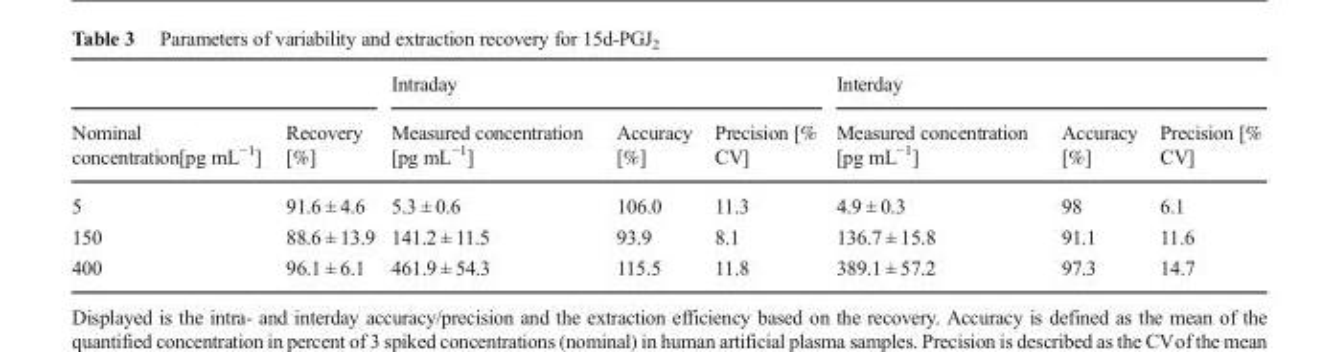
<table><thead><tr><td rowspan="2">Nominal concentration[pg mL<sup>−1</sup>]</td><td rowspan="2">Recovery [%]</td><td colspan="3">Intraday</td><td colspan="3">Interday</td></tr><tr><td>Measured concentration [pg mL<sup>−1</sup>]</td><td>Accuracy [%]</td><td>Precision [% CV]</td><td>Measured concentration [pg mL<sup>−1</sup>]</td><td>Accuracy [%]</td><td>Precision [% CV]</td></tr></thead><tbody><tr><td>5</td><td>91.6 ± 4.6</td><td>5.3 ± 0.6</td><td>106.0</td><td>11.3</td><td>4.9 ± 0.3</td><td>98</td><td>6.1</td></tr><tr><td>150</td><td>88.6 ± 13.9</td><td>141.2 ± 11.5</td><td>93.9</td><td>8.1</td><td>136.7 ± 15.8</td><td>91.1</td><td>11.6</td></tr><tr><td>400</td><td>96.1 ± 6.1</td><td>461.9 ± 54.3</td><td>115.5</td><td>11.8</td><td>389.1 ± 57.2</td><td>97.3</td><td>14.7</td></tr></tbody></table>